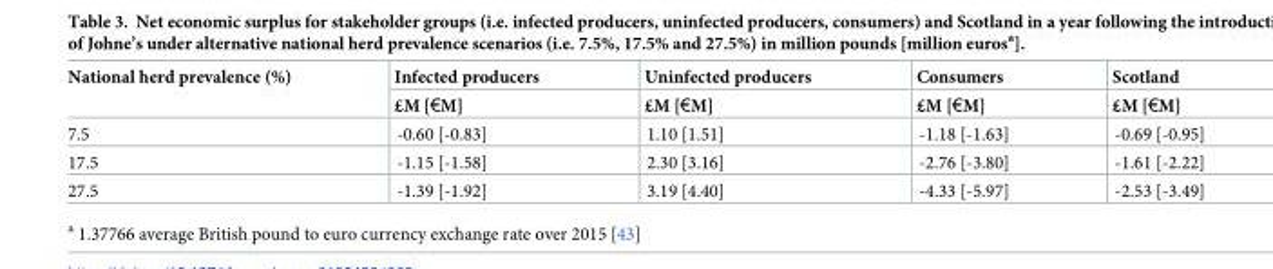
<table><thead><tr><td rowspan="2">National herd prevalence (%)</td><td rowspan="2">Infected producers £M [€M]</td><td rowspan="2">Uninfected producers £M [€M]</td><td rowspan="2">Consumers £M [€M]</td><td rowspan="2">Scotland £M [€M]</td></tr><tr></tr></thead><tbody><tr><td>7.5</td><td>-0.60 [-0.83]</td><td>1.10 [1.51]</td><td>-1.18 [-1.63]</td><td>-0.69 [-0.95]</td></tr><tr><td>17.5</td><td>-1.15 [-1.58]</td><td>2.30 [3.16]</td><td>-2.76 [-3.80]</td><td>-1.61 [-2.22]</td></tr><tr><td>27.5</td><td>-1.39 [-1.92]</td><td>3.19 [4.40]</td><td>-4.33 [-5.97]</td><td>-2.53 [-3.49]</td></tr></tbody></table>